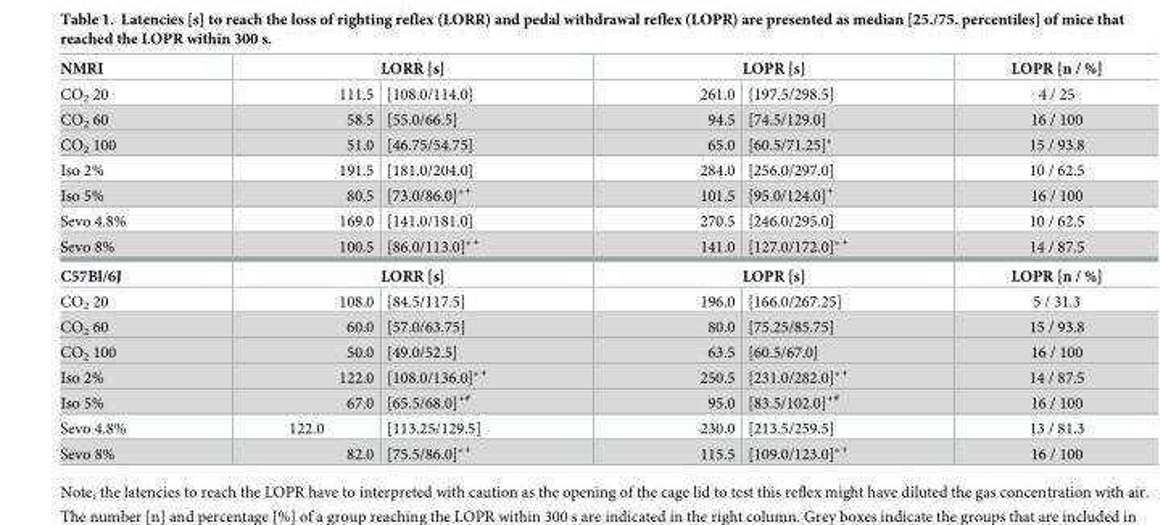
<table><tbody><tr><td>NMRI</td><td colspan="2">LORR [s]</td><td colspan="2">LOPR [s]</td><td>LOPR [n / %]</td></tr><tr><td>CO<sub>2</sub> 20</td><td>111.5</td><td>[108.0/114.0]</td><td>261.0</td><td>[197.5/298.5]</td><td>4 / 25</td></tr><tr><td>CO<sub>2</sub> 60</td><td>58.5</td><td>[55.0/66.5]</td><td>94.5</td><td>[74.5/129.0]</td><td>16 / 100</td></tr><tr><td>CO<sub>2</sub> 100</td><td>51.0</td><td>[46.75/54.75]</td><td>65.0</td><td>[60.5/71.25]*</td><td>15 / 93.8</td></tr><tr><td>Iso 2%</td><td>191.5</td><td>[181.0/204.0]</td><td>284.0</td><td>[256.0/297.0]</td><td>10 / 62.5</td></tr><tr><td>Iso 5%</td><td>80.5</td><td>[73.0/86.0]*<sup>+</sup></td><td>101.5</td><td>[95.0/124.0]<sup>+</sup></td><td>16 / 100</td></tr><tr><td>Sevo 4.8%</td><td>169.0</td><td>[141.0/181.0]</td><td>270.5</td><td>[246.0/295.0]</td><td>10 / 62.5</td></tr><tr><td>Sevo 8%</td><td>100.5</td><td>[86.0/113.0]*<sup>+</sup></td><td>141.0</td><td>[127.0/172.0]*<sup>+</sup></td><td>14 / 87.5</td></tr><tr><td>C57Bl/6J</td><td colspan="2">LORR [s]</td><td colspan="2">LOPR [s]</td><td>LOPR [n / %]</td></tr><tr><td>CO<sub>2</sub> 20</td><td>108.0</td><td>[84.5/117.5]</td><td>196.0</td><td>[166.0/267.25]</td><td>5 / 31.3</td></tr><tr><td>CO<sub>2</sub> 60</td><td>60.0</td><td>[57.0/63.75]</td><td>80.0</td><td>[75.25/85.75]</td><td>15 / 93.8</td></tr><tr><td>CO<sub>2</sub> 100</td><td>50.0</td><td>[49.0/52.5]</td><td>63.5</td><td>[60.5/67.0]</td><td>16 / 100</td></tr><tr><td>Iso 2%</td><td>122.0</td><td>[108.0/136.0]*<sup>+</sup></td><td>250.5</td><td>[231.0/282.0]*<sup>+</sup></td><td>14 / 87.5</td></tr><tr><td>Iso 5%</td><td>67.0</td><td>[65.5/68.0]<sup>+#</sup></td><td>95.0</td><td>[83.5/102.0]<sup>+#</sup></td><td>16 / 100</td></tr><tr><td>Sevo 4.8%</td><td>122.0</td><td>[113.25/129.5]</td><td>230.0</td><td>[213.5/259.5]</td><td>13 / 81.3</td></tr><tr><td>Sevo 8%</td><td>82.0</td><td>[75.5/86.0]*<sup>+</sup></td><td>115.5</td><td>[109.0/123.0]*<sup>+</sup></td><td>16 / 100</td></tr></tbody></table>